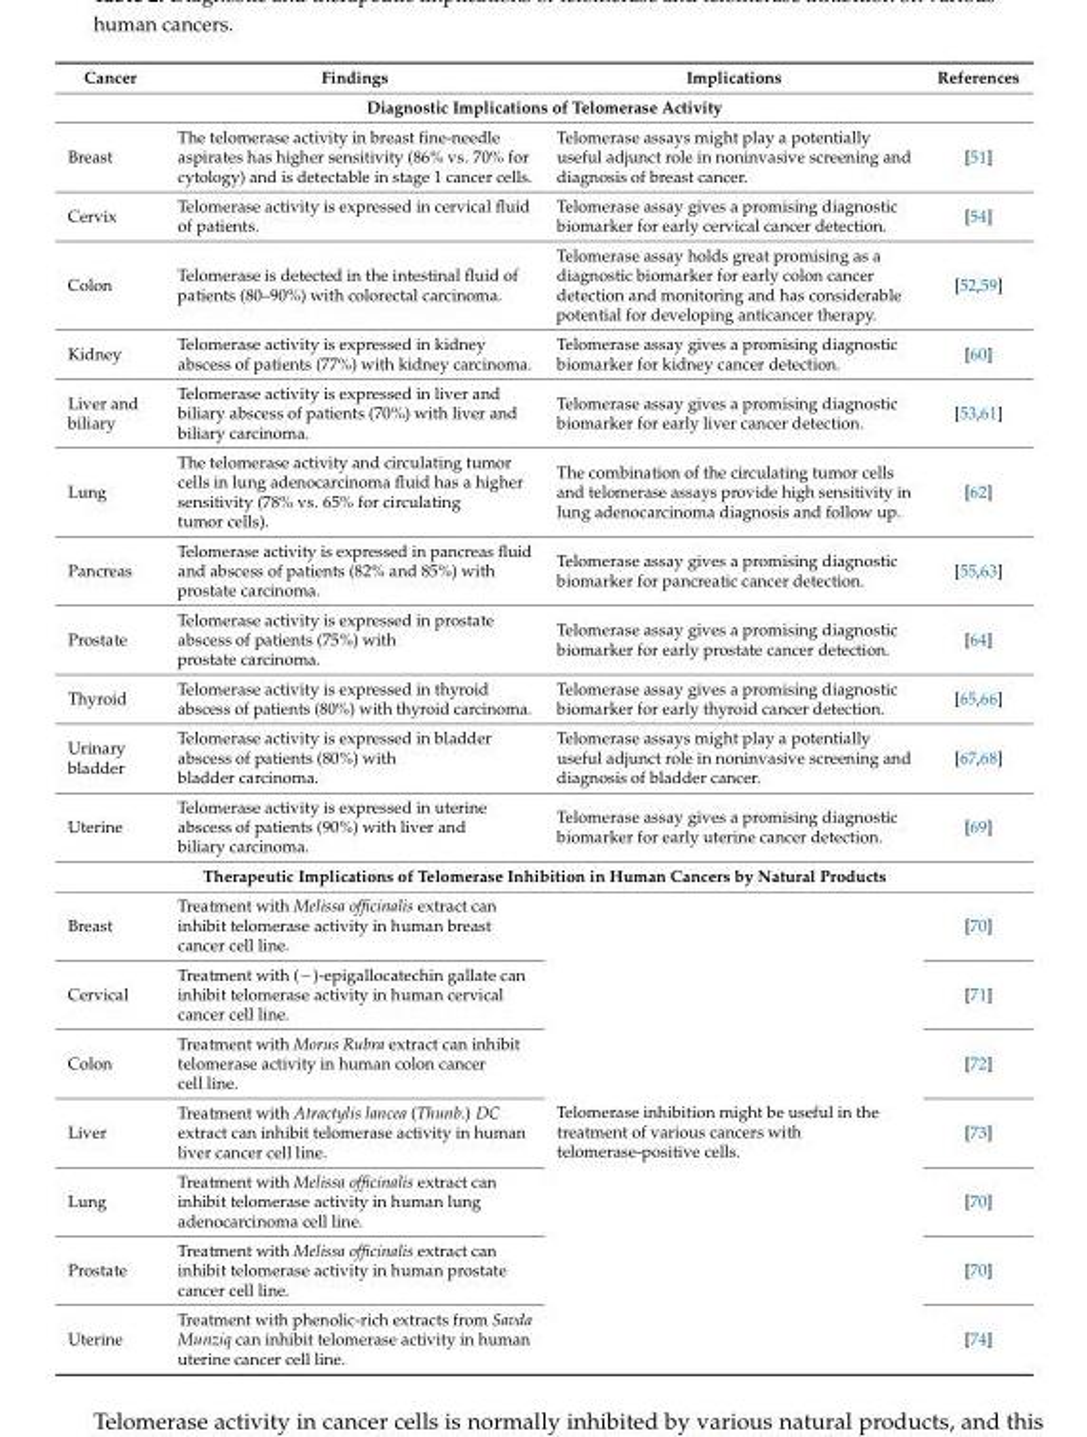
<table><thead><tr><td>Cancer</td><td>Findings</td><td>Implications</td><td>References</td></tr></thead><tbody><tr><td colspan="4">Diagnostic Implications of Telomerase Activity</td></tr><tr><td>Breast</td><td>The telomerase activity in breast fine-needle aspirates has higher sensitivity (86% vs. 70% for cytology) and is detectable in stage 1 cancer cells.</td><td>Telomerase assays might play a potentially useful adjunct role in noninvasive screening and diagnosis of breast cancer.</td><td>[51]</td></tr><tr><td>Cervix</td><td>Telomerase activity is expressed in cervical fluid of patients.</td><td>Telomerase assay gives a promising diagnostic biomarker for early cervical cancer detection.</td><td>[54]</td></tr><tr><td>Colon</td><td>Telomerase is detected in the intestinal fluid of patients (80–90%) with colorectal carcinoma.</td><td>Telomerase assay holds great promising as a diagnostic biomarker for early colon cancer detection and monitoring and has considerable potential for developing anticancer therapy.</td><td>[52,59]</td></tr><tr><td>Kidney</td><td>Telomerase activity is expressed in kidney abscess of patients (77%) with kidney carcinoma.</td><td>Telomerase assay gives a promising diagnostic biomarker for kidney cancer detection.</td><td>[60]</td></tr><tr><td>Liver and biliary</td><td>Telomerase activity is expressed in liver and biliary abscess of patients (70%) with liver and biliary carcinoma.</td><td>Telomerase assay gives a promising diagnostic biomarker for early liver cancer detection.</td><td>[53,61]</td></tr><tr><td>Lung</td><td>The telomerase activity and circulating tumor cells in lung adenocarcinoma fluid has a higher sensitivity (78% vs. 65% for circulating tumor cells).</td><td>The combination of the circulating tumor cells and telomerase assays provide high sensitivity in lung adenocarcinoma diagnosis and follow up.</td><td>[62]</td></tr><tr><td>Pancreas</td><td>Telomerase activity is expressed in pancreas fluid and abscess of patients (82% and 85%) with prostate carcinoma.</td><td>Telomerase assay gives a promising diagnostic biomarker for pancreatic cancer detection.</td><td>[55,63]</td></tr><tr><td>Prostate</td><td>Telomerase activity is expressed in prostate abscess of patients (75%) with prostate carcinoma.</td><td>Telomerase assay gives a promising diagnostic biomarker for early prostate cancer detection.</td><td>[64]</td></tr><tr><td>Thyroid</td><td>Telomerase activity is expressed in thyroid abscess of patients (80%) with thyroid carcinoma.</td><td>Telomerase assay gives a promising diagnostic biomarker for early thyroid cancer detection.</td><td>[65,66]</td></tr><tr><td>Urinary bladder</td><td>Telomerase activity is expressed in bladder abscess of patients (80%) with bladder carcinoma.</td><td>Telomerase assays might play a potentially useful adjunct role in noninvasive screening and diagnosis of bladder cancer.</td><td>[67,68]</td></tr><tr><td>Uterine</td><td>Telomerase activity is expressed in uterine abscess of patients (90%) with liver and biliary carcinoma.</td><td>Telomerase assay gives a promising diagnostic biomarker for early uterine cancer detection.</td><td>[69]</td></tr><tr><td colspan="4">Therapeutic Implications of Telomerase Inhibition in Human Cancers by Natural Products</td></tr><tr><td>Breast</td><td>Treatment with Melissa officinalis extract can inhibit telomerase activity in human breast cancer cell line.</td><td rowspan="7">Telomerase inhibition might be useful in the treatment of various cancers with telomerase-positive cells.</td><td>[70]</td></tr><tr><td>Cervical</td><td>Treatment with (−)-epigallocatechin gallate can inhibit telomerase activity in human cervical cancer cell line.</td><td>[71]</td></tr><tr><td>Colon</td><td>Treatment with Morus Rubra extract can inhibit telomerase activity in human colon cancer cell line.</td><td>[72]</td></tr><tr><td>Liver</td><td>Treatment with Atractylis lancea (Thunb.) DC extract can inhibit telomerase activity in human liver cancer cell line.</td><td>[73]</td></tr><tr><td>Lung</td><td>Treatment with Melissa officinalis extract can inhibit telomerase activity in human lung adenocarcinoma cell line.</td><td>[70]</td></tr><tr><td>Prostate</td><td>Treatment with Melissa officinalis extract can inhibit telomerase activity in human prostate cancer cell line.</td><td>[70]</td></tr><tr><td>Uterine</td><td>Treatment with phenolic-rich extracts from Savda Munziq can inhibit telomerase activity in human uterine cancer cell line.</td><td>[74]</td></tr></tbody></table>